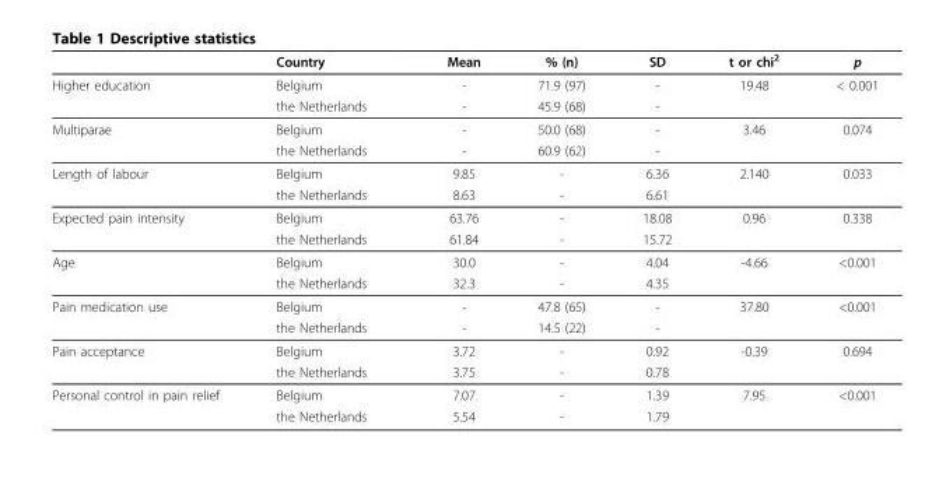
<table><thead><tr><td></td><td>Country</td><td>Mean</td><td>% (n)</td><td>SD</td><td>t or chi<sup>2</sup></td><td>p</td></tr></thead><tbody><tr><td rowspan="2">Higher education</td><td>Belgium</td><td>-</td><td>71.9 (97)</td><td>-</td><td>19.48</td><td>&lt; 0.001</td></tr><tr><td>the Netherlands</td><td>-</td><td>45.9 (68)</td><td>-</td><td></td><td></td></tr><tr><td rowspan="2">Multiparae</td><td>Belgium</td><td>-</td><td>50.0 (68)</td><td>-</td><td>3.46</td><td>0.074</td></tr><tr><td>the Netherlands</td><td>-</td><td>60.9 (62)</td><td>-</td><td></td><td></td></tr><tr><td rowspan="2">Length of labour</td><td>Belgium</td><td>9.85</td><td>-</td><td>6.36</td><td>2.140</td><td>0.033</td></tr><tr><td>the Netherlands</td><td>8.63</td><td>-</td><td>6.61</td><td></td><td></td></tr><tr><td rowspan="2">Expected pain intensity</td><td>Belgium</td><td>63.76</td><td>-</td><td>18.08</td><td>0.96</td><td>0.338</td></tr><tr><td>the Netherlands</td><td>61.84</td><td>-</td><td>15.72</td><td></td><td></td></tr><tr><td rowspan="2">Age</td><td>Belgium</td><td>30.0</td><td>-</td><td>4.04</td><td>-4.66</td><td>&lt;0.001</td></tr><tr><td>the Netherlands</td><td>32.3</td><td>-</td><td>4.35</td><td></td><td></td></tr><tr><td rowspan="2">Pain medication use</td><td>Belgium</td><td>-</td><td>47.8 (65)</td><td>-</td><td>37.80</td><td>&lt;0.001</td></tr><tr><td>the Netherlands</td><td>-</td><td>14.5 (22)</td><td>-</td><td></td><td></td></tr><tr><td rowspan="2">Pain acceptance</td><td>Belgium</td><td>3.72</td><td>-</td><td>0.92</td><td>-0.39</td><td>0.694</td></tr><tr><td>the Netherlands</td><td>3.75</td><td>-</td><td>0.78</td><td></td><td></td></tr><tr><td rowspan="2">Personal control in pain relief</td><td>Belgium</td><td>7.07</td><td>-</td><td>1.39</td><td>7.95</td><td>&lt;0.001</td></tr><tr><td>the Netherlands</td><td>5.54</td><td>-</td><td>1.79</td><td></td><td></td></tr></tbody></table>